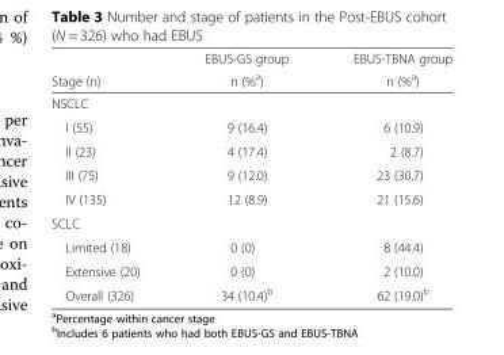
<table><thead><tr><td rowspan="2">Stage (n)</td><td rowspan="2">EBUS-GS group n (%<sup>a</sup>)</td><td rowspan="2">EBUS-TBNA group n (%<sup>a</sup>)</td></tr><tr></tr></thead><tbody><tr><td colspan="3">NSCLC</td></tr><tr><td>I (55)</td><td>9 (16.4)</td><td>6 (10.9)</td></tr><tr><td>II (23)</td><td>4 (17.4)</td><td>2 (8.7)</td></tr><tr><td>III (75)</td><td>9 (12.0)</td><td>23 (30.7)</td></tr><tr><td>IV (135)</td><td>12 (8.9)</td><td>21 (15.6)</td></tr><tr><td colspan="3">SCLC</td></tr><tr><td>Limited (18)</td><td>0 (0)</td><td>8 (44.4)</td></tr><tr><td>Extensive (20)</td><td>0 (0)</td><td>2 (10.0)</td></tr><tr><td>Overall (326)</td><td>34 (10.4)<sup>b</sup></td><td>62 (19.0)<sup>b</sup></td></tr></tbody></table>